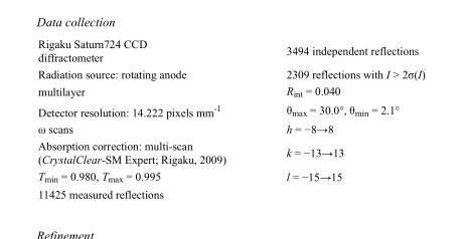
<table><tbody><tr><td>Rigaku Saturn724 CCD diffractometer</td><td>3494 independent reflections</td></tr><tr><td>Radiation source: rotating anode</td><td>2309 reflections with I &gt; 2σ(I)</td></tr><tr><td>multilayer</td><td>R<sub>int</sub> = 0.040</td></tr><tr><td>Detector resolution: 14.222 pixels mm<sup>-1</sup></td><td>θ<sub>max</sub> = 30.0°, θ<sub>min</sub> = 2.1°</td></tr><tr><td>ω scans</td><td>h = −8→8</td></tr><tr><td>Absorption correction: multi-scan (CrystalClear-SM Expert; Rigaku, 2009)</td><td>k = −13→13</td></tr><tr><td>T<sub>min</sub> = 0.980, T<sub>max</sub> = 0.995</td><td>l = −15→15</td></tr><tr><td>11425 measured reflections</td><td></td></tr></tbody></table>